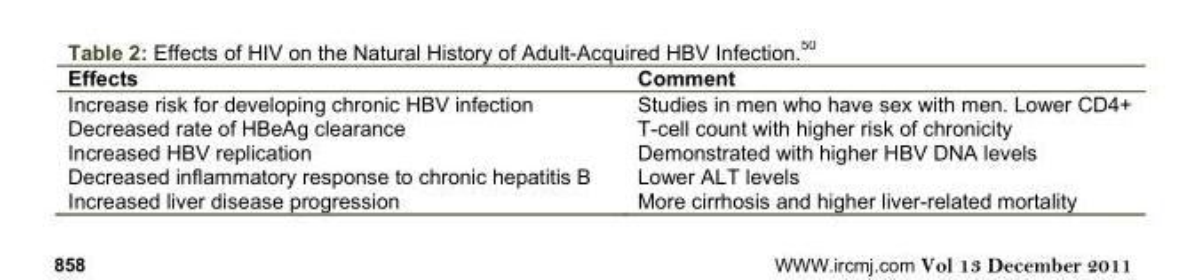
<table><thead><tr><td>Effects</td><td>Comment</td></tr></thead><tbody><tr><td>Increase risk for developing chronic HBV infection</td><td>Studies in men who have sex with men. Lower CD4+</td></tr><tr><td>Decreased rate of HBeAg clearance</td><td>T-cell count with higher risk of chronicity</td></tr><tr><td>Increased HBV replication</td><td>Demonstrated with higher HBV DNA levels</td></tr><tr><td>Decreased inflammatory response to chronic hepatitis B</td><td>Lower ALT levels</td></tr><tr><td>Increased liver disease progression</td><td>More cirrhosis and higher liver-related mortality</td></tr></tbody></table>